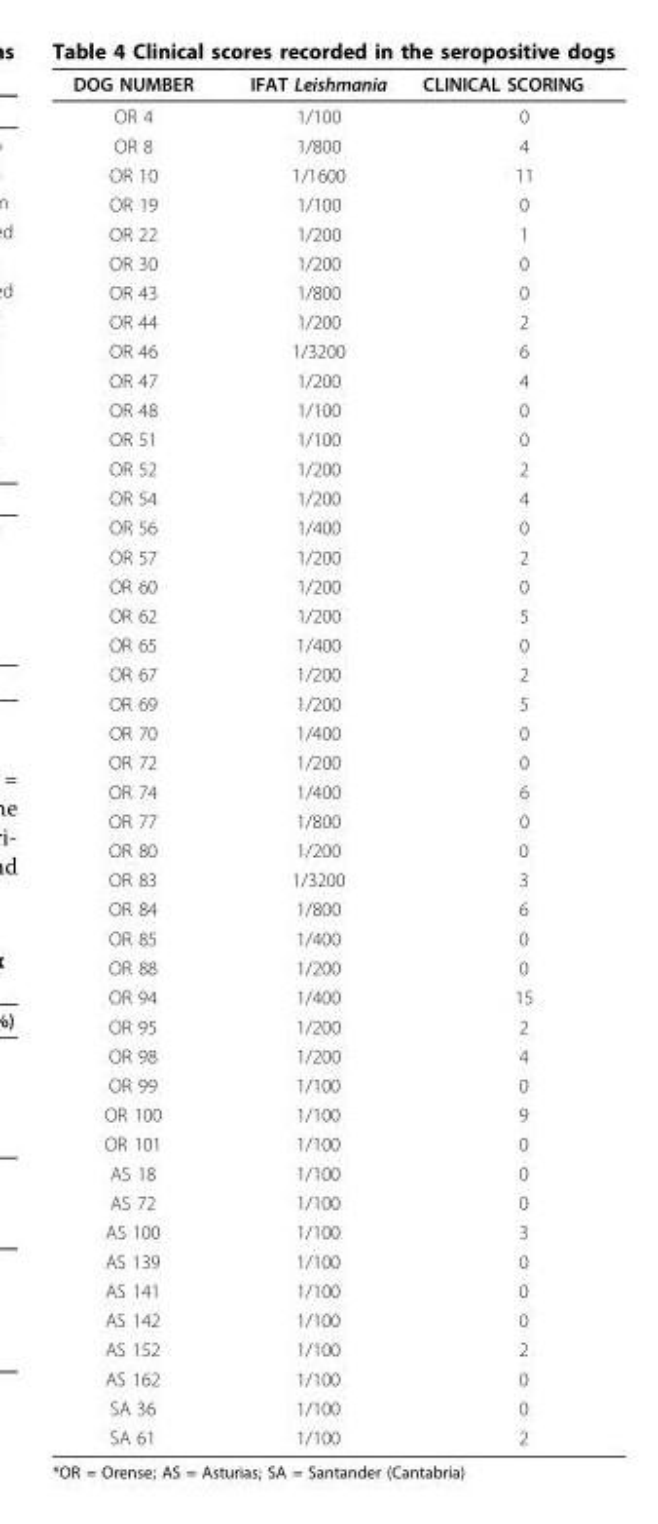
<table><thead><tr><td>DOG NUMBER</td><td>IFAT Leishmania</td><td>CLINICAL SCORING</td></tr></thead><tbody><tr><td>OR 4</td><td>1/100</td><td>0</td></tr><tr><td>OR 8</td><td>1/800</td><td>4</td></tr><tr><td>OR 10</td><td>1/1600</td><td>11</td></tr><tr><td>OR 19</td><td>1/100</td><td>0</td></tr><tr><td>OR 22</td><td>1/200</td><td>1</td></tr><tr><td>OR 30</td><td>1/200</td><td>0</td></tr><tr><td>OR 43</td><td>1/800</td><td>0</td></tr><tr><td>OR 44</td><td>1/200</td><td>2</td></tr><tr><td>OR 46</td><td>1/3200</td><td>6</td></tr><tr><td>OR 47</td><td>1/200</td><td>4</td></tr><tr><td>OR 48</td><td>1/100</td><td>0</td></tr><tr><td>OR 51</td><td>1/100</td><td>0</td></tr><tr><td>OR 52</td><td>1/200</td><td>2</td></tr><tr><td>OR 54</td><td>1/200</td><td>4</td></tr><tr><td>OR 56</td><td>1/400</td><td>0</td></tr><tr><td>OR 57</td><td>1/200</td><td>2</td></tr><tr><td>OR 60</td><td>1/200</td><td>0</td></tr><tr><td>OR 62</td><td>1/200</td><td>5</td></tr><tr><td>OR 65</td><td>1/400</td><td>0</td></tr><tr><td>OR 67</td><td>1/200</td><td>2</td></tr><tr><td>OR 69</td><td>1/200</td><td>5</td></tr><tr><td>OR 70</td><td>1/400</td><td>0</td></tr><tr><td>OR 72</td><td>1/200</td><td>0</td></tr><tr><td>OR 74</td><td>1/400</td><td>6</td></tr><tr><td>OR 77</td><td>1/800</td><td>0</td></tr><tr><td>OR 80</td><td>1/200</td><td>0</td></tr><tr><td>OR 83</td><td>1/3200</td><td>3</td></tr><tr><td>OR 84</td><td>1/800</td><td>6</td></tr><tr><td>OR 85</td><td>1/400</td><td>0</td></tr><tr><td>OR 88</td><td>1/200</td><td>0</td></tr><tr><td>OR 94</td><td>1/400</td><td>15</td></tr><tr><td>OR 95</td><td>1/200</td><td>2</td></tr><tr><td>OR 98</td><td>1/200</td><td>4</td></tr><tr><td>OR 99</td><td>1/100</td><td>0</td></tr><tr><td>OR 100</td><td>1/100</td><td>9</td></tr><tr><td>OR 101</td><td>1/100</td><td>0</td></tr><tr><td>AS 18</td><td>1/100</td><td>0</td></tr><tr><td>AS 72</td><td>1/100</td><td>0</td></tr><tr><td>AS 100</td><td>1/100</td><td>3</td></tr><tr><td>AS 139</td><td>1/100</td><td>0</td></tr><tr><td>AS 141</td><td>1/100</td><td>0</td></tr><tr><td>AS 142</td><td>1/100</td><td>0</td></tr><tr><td>AS 152</td><td>1/100</td><td>2</td></tr><tr><td>AS 162</td><td>1/100</td><td>0</td></tr><tr><td>SA 36</td><td>1/100</td><td>0</td></tr><tr><td>SA 61</td><td>1/100</td><td>2</td></tr></tbody></table>